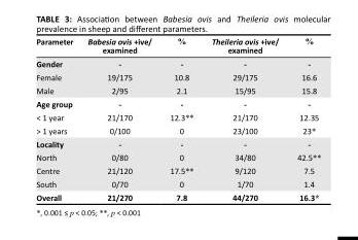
<table><thead><tr><td>Parameter</td><td>Babesia ovis +ive/ examined</td><td>%</td><td>Theileria ovis +ive/ examined</td><td>%</td></tr></thead><tbody><tr><td>Gender</td><td>-</td><td>-</td><td>-</td><td>-</td></tr><tr><td>Female</td><td>19/175</td><td>10.8</td><td>29/175</td><td>16.6</td></tr><tr><td>Male</td><td>2/95</td><td>2.1</td><td>15/95</td><td>15.8</td></tr><tr><td>Age group</td><td>-</td><td>-</td><td>-</td><td>-</td></tr><tr><td>&lt; 1 year</td><td>21/170</td><td>12.3**</td><td>21/170</td><td>12.35</td></tr><tr><td>&gt; 1 years</td><td>0/100</td><td>0</td><td>23/100</td><td>23*</td></tr><tr><td>Locality</td><td>-</td><td>-</td><td>-</td><td>-</td></tr><tr><td>North</td><td>0/80</td><td>0</td><td>34/80</td><td>42.5**</td></tr><tr><td>Centre</td><td>21/120</td><td>17.5**</td><td>9/120</td><td>7.5</td></tr><tr><td>South</td><td>0/70</td><td>0</td><td>1/70</td><td>1.4</td></tr><tr><td>Overall</td><td>21/270</td><td>7.8</td><td>44/270</td><td>16.3*</td></tr></tbody></table>